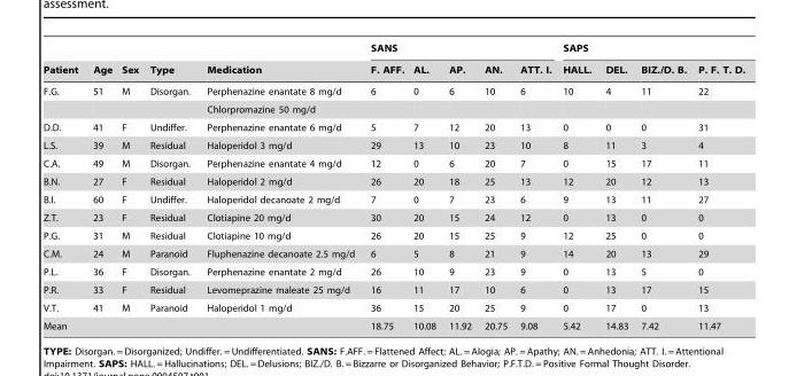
<table><thead><tr><td rowspan="2">Patient</td><td rowspan="2">Age</td><td rowspan="2">Sex</td><td rowspan="2">Type</td><td rowspan="2">Medication</td><td colspan="5">SANS</td><td colspan="4">SAPS</td></tr><tr><td>F. AFF.</td><td>AL.</td><td>AP.</td><td>AN.</td><td>ATT. I.</td><td>HALL.</td><td>DEL.</td><td>BIZ./D. B.</td><td>P. F. T. D.</td></tr></thead><tbody><tr><td rowspan="2">F.G.</td><td>51</td><td>M</td><td>Disorgan.</td><td>Perphenazine enantate 8 mg/d</td><td>6</td><td>0</td><td>6</td><td>10</td><td>6</td><td>10</td><td>4</td><td>11</td><td>22</td></tr><tr><td></td><td></td><td></td><td>Chlorpromazine 50 mg/d</td><td></td><td></td><td></td><td></td><td></td><td></td><td></td><td></td><td></td></tr><tr><td>D.D.</td><td>41</td><td>F</td><td>Undiffer.</td><td>Perphenazine enantate 6 mg/d</td><td>5</td><td>7</td><td>12</td><td>20</td><td>13</td><td>0</td><td>0</td><td>0</td><td>31</td></tr><tr><td>L.S.</td><td>39</td><td>M</td><td>Residual</td><td>Haloperidol 3 mg/d</td><td>29</td><td>13</td><td>10</td><td>23</td><td>10</td><td>8</td><td>11</td><td>3</td><td>4</td></tr><tr><td>C.A.</td><td>49</td><td>M</td><td>Disorgan.</td><td>Perphenazine enantate 4 mg/d</td><td>12</td><td>0</td><td>6</td><td>20</td><td>7</td><td>0</td><td>15</td><td>17</td><td>11</td></tr><tr><td>B.N.</td><td>27</td><td>F</td><td>Residual</td><td>Haloperidol 2 mg/d</td><td>26</td><td>20</td><td>18</td><td>25</td><td>13</td><td>12</td><td>20</td><td>12</td><td>13</td></tr><tr><td>B.I.</td><td>60</td><td>F</td><td>Undiffer.</td><td>Haloperidol decanoate 2 mg/d</td><td>7</td><td>0</td><td>7</td><td>23</td><td>6</td><td>9</td><td>13</td><td>11</td><td>27</td></tr><tr><td>Z.T.</td><td>23</td><td>F</td><td>Residual</td><td>Clotiapine 20 mg/d</td><td>30</td><td>20</td><td>15</td><td>24</td><td>12</td><td>0</td><td>13</td><td>0</td><td>0</td></tr><tr><td>P.G.</td><td>31</td><td>M</td><td>Residual</td><td>Clotiapine 10 mg/d</td><td>26</td><td>20</td><td>15</td><td>25</td><td>9</td><td>12</td><td>25</td><td>0</td><td>0</td></tr><tr><td>C.M.</td><td>24</td><td>M</td><td>Paranoid</td><td>Fluphenazine decanoate 2.5 mg/d</td><td>6</td><td>5</td><td>8</td><td>21</td><td>9</td><td>14</td><td>20</td><td>13</td><td>29</td></tr><tr><td>P.L.</td><td>36</td><td>F</td><td>Disorgan.</td><td>Perphenazine enantate 2 mg/d</td><td>26</td><td>10</td><td>9</td><td>23</td><td>9</td><td>0</td><td>13</td><td>5</td><td>0</td></tr><tr><td>P.R.</td><td>33</td><td>F</td><td>Residual</td><td>Levomeprazine maleate 25 mg/d</td><td>16</td><td>11</td><td>17</td><td>10</td><td>6</td><td>0</td><td>13</td><td>17</td><td>15</td></tr><tr><td>V.T.</td><td>41</td><td>M</td><td>Paranoid</td><td>Haloperidol 1 mg/d</td><td>36</td><td>15</td><td>20</td><td>25</td><td>9</td><td>0</td><td>17</td><td>0</td><td>13</td></tr><tr><td colspan="5">Mean</td><td>18.75</td><td>10.08</td><td>11.92</td><td>20.75</td><td>9.08</td><td>5.42</td><td>14.83</td><td>7.42</td><td>11.47</td></tr></tbody></table>